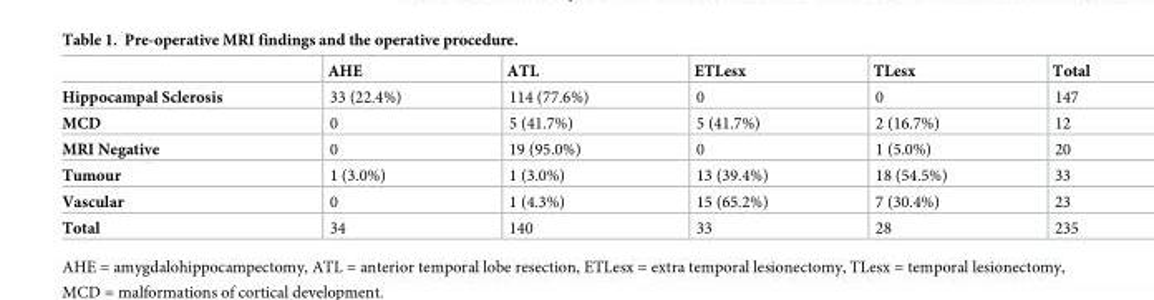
<table><thead><tr><td></td><td>AHE</td><td>ATL</td><td>ETLesx</td><td>TLesx</td><td>Total</td></tr></thead><tbody><tr><td>Hippocampal Sclerosis</td><td>33 (22.4%)</td><td>114 (77.6%)</td><td>0</td><td>0</td><td>147</td></tr><tr><td>MCD</td><td>0</td><td>5 (41.7%)</td><td>5 (41.7%)</td><td>2 (16.7%)</td><td>12</td></tr><tr><td>MRI Negative</td><td>0</td><td>19 (95.0%)</td><td>0</td><td>1 (5.0%)</td><td>20</td></tr><tr><td>Tumour</td><td>1 (3.0%)</td><td>1 (3.0%)</td><td>13 (39.4%)</td><td>18 (54.5%)</td><td>33</td></tr><tr><td>Vascular</td><td>0</td><td>1 (4.3%)</td><td>15 (65.2%)</td><td>7 (30.4%)</td><td>23</td></tr><tr><td>Total</td><td>34</td><td>140</td><td>33</td><td>28</td><td>235</td></tr></tbody></table>